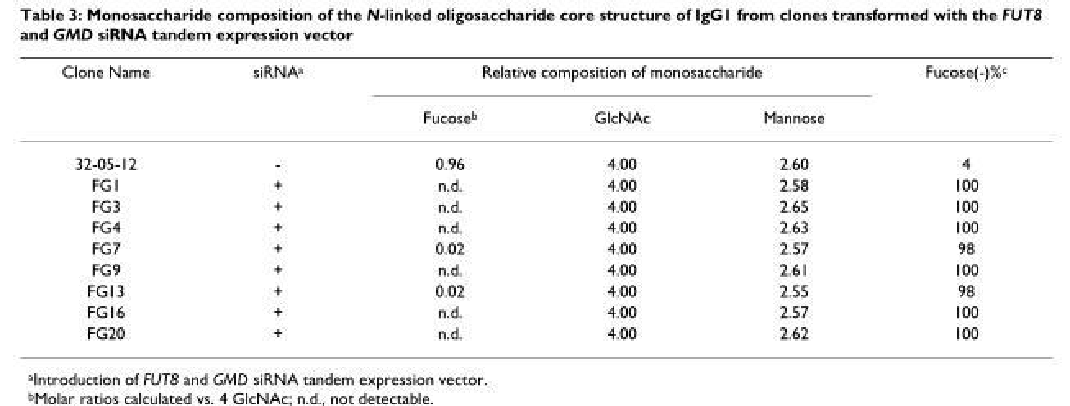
<table><thead><tr><td rowspan="2">Clone Name</td><td rowspan="2">siRNA<sup>a</sup></td><td colspan="3">Relative composition of monosaccharide</td><td rowspan="2">Fucose(-)%<sup>c</sup></td></tr><tr><td>Fucose<sup>b</sup></td><td>GlcNAc</td><td>Mannose</td></tr></thead><tbody><tr><td>32-05-12</td><td>-</td><td>0.96</td><td>4.00</td><td>2.60</td><td>4</td></tr><tr><td>FG1</td><td>+</td><td>n.d.</td><td>4.00</td><td>2.58</td><td>100</td></tr><tr><td>FG3</td><td>+</td><td>n.d.</td><td>4.00</td><td>2.65</td><td>100</td></tr><tr><td>FG4</td><td>+</td><td>n.d.</td><td>4.00</td><td>2.63</td><td>100</td></tr><tr><td>FG7</td><td>+</td><td>0.02</td><td>4.00</td><td>2.57</td><td>98</td></tr><tr><td>FG9</td><td>+</td><td>n.d.</td><td>4.00</td><td>2.61</td><td>100</td></tr><tr><td>FG13</td><td>+</td><td>0.02</td><td>4.00</td><td>2.55</td><td>98</td></tr><tr><td>FG16</td><td>+</td><td>n.d.</td><td>4.00</td><td>2.57</td><td>100</td></tr><tr><td>FG20</td><td>+</td><td>n.d.</td><td>4.00</td><td>2.62</td><td>100</td></tr></tbody></table>